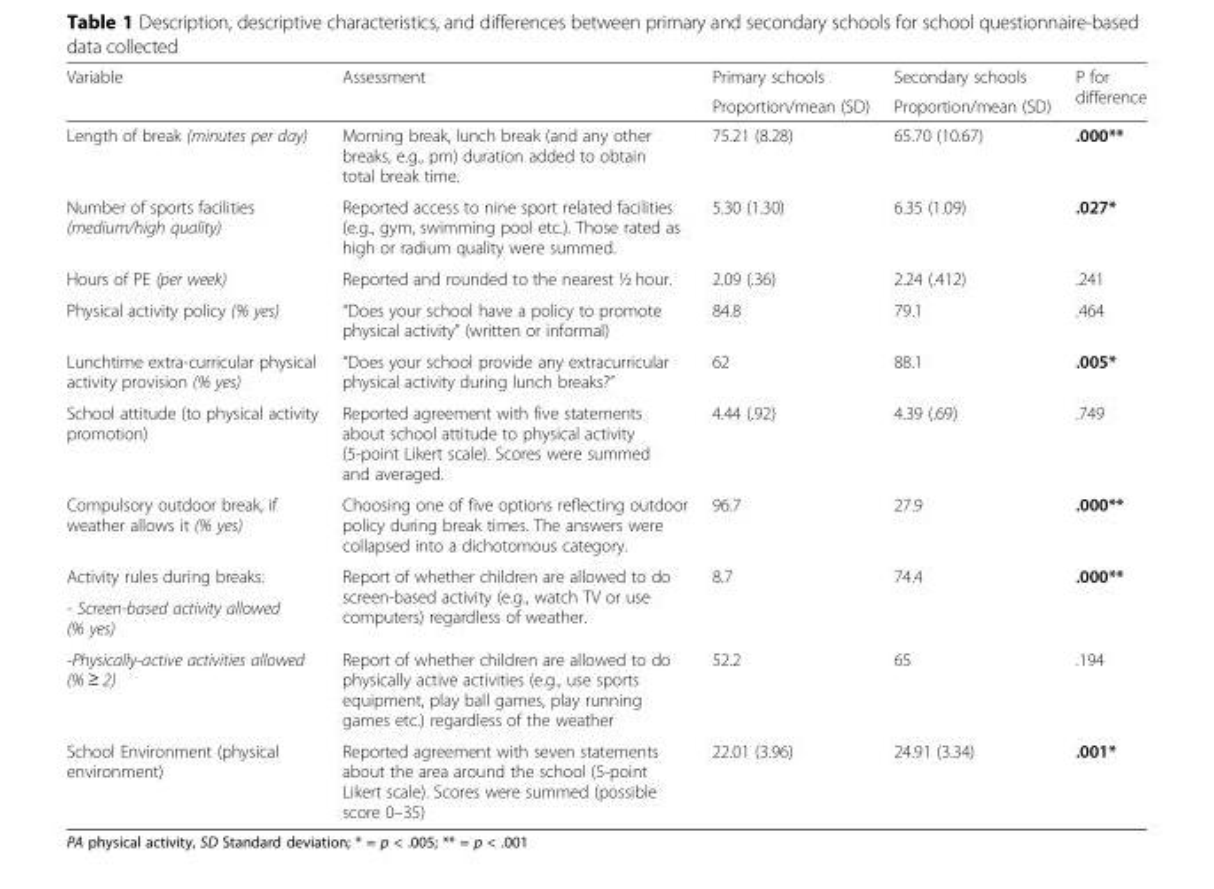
<table><thead><tr><td rowspan="2">Variable</td><td rowspan="2">Assessment</td><td rowspan="2">Primary schools Proportion/mean (SD)</td><td rowspan="2">Secondary schools Proportion/mean (SD)</td><td rowspan="2">P for difference</td></tr><tr></tr></thead><tbody><tr><td>Length of break (minutes per day)</td><td>Morning break, lunch break (and any other breaks, e.g., pm) duration added to obtain total break time.</td><td>75.21 (8.28)</td><td>65.70 (10.67)</td><td>.000**</td></tr><tr><td>Number of sports facilities (medium/high quality)</td><td>Reported access to nine sport related facilities (e.g., gym, swimming pool etc.). Those rated as high or radium quality were summed.</td><td>5.30 (1.30)</td><td>6.35 (1.09)</td><td>.027*</td></tr><tr><td>Hours of PE (per week)</td><td>Reported and rounded to the nearest ½ hour.</td><td>2.09 (.36)</td><td>2.24 (.412)</td><td>.241</td></tr><tr><td>Physical activity policy (% yes)</td><td>“Does your school have a policy to promote physical activity” (written or informal)</td><td>84.8</td><td>79.1</td><td>.464</td></tr><tr><td>Lunchtime extra-curricular physical activity provision (% yes)</td><td>“Does your school provide any extracurricular physical activity during lunch breaks?”</td><td>62</td><td>88.1</td><td>.005*</td></tr><tr><td>School attitude (to physical activity promotion)</td><td>Reported agreement with five statements about school attitude to physical activity (5-point Likert scale). Scores were summed and averaged.</td><td>4.44 (.92)</td><td>4.39 (.69)</td><td>.749</td></tr><tr><td>Compulsory outdoor break, if weather allows it (% yes)</td><td>Choosing one of five options reflecting outdoor policy during break times. The answers were collapsed into a dichotomous category.</td><td>96.7</td><td>27.9</td><td>.000**</td></tr><tr><td>Activity rules during breaks:</td><td rowspan="2">Report of whether children are allowed to do screen-based activity (e.g., watch TV or use computers) regardless of weather.</td><td rowspan="2">8.7</td><td rowspan="2">74.4</td><td rowspan="2">.000**</td></tr><tr><td>- Screen-based activity allowed (% yes)</td></tr><tr><td>-Physically-active activities allowed (% ≥ 2)</td><td>Report of whether children are allowed to do physically active activities (e.g., use sports equipment, play ball games, play running games etc.) regardless of the weather</td><td>52.2</td><td>65</td><td>.194</td></tr><tr><td>School Environment (physical environment)</td><td>Reported agreement with seven statements about the area around the school (5-point Likert scale). Scores were summed (possible score 0–35)</td><td>22.01 (3.96)</td><td>24.91 (3.34)</td><td>.001*</td></tr></tbody></table>